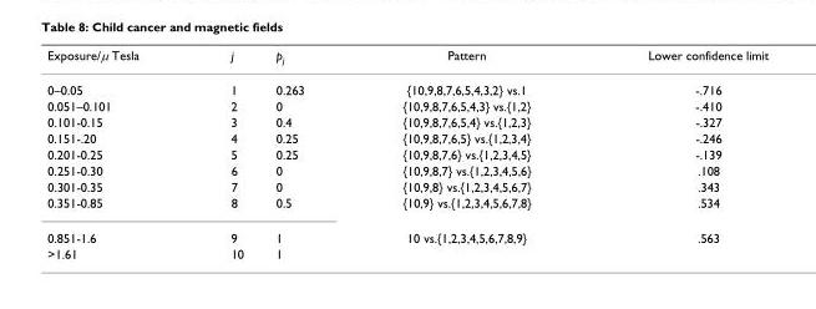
<table><thead><tr><td>Exposure/μ Tesla</td><td>j</td><td>p<sub>j</sub></td><td>Pattern</td><td>Lower confidence limit</td></tr></thead><tbody><tr><td>0–0.05</td><td>1</td><td>0.263</td><td>{10,9,8,7,6,5,4,3,2} vs.1</td><td>-.716</td></tr><tr><td>0.051–0.101</td><td>2</td><td>0</td><td>{10,9,8,7,6,5,4,3} vs.{1,2}</td><td>-.410</td></tr><tr><td>0.101-0.15</td><td>3</td><td>0.4</td><td>{10,9,8,7,6,5,4} vs.{1,2,3}</td><td>-.327</td></tr><tr><td>0.151-.20</td><td>4</td><td>0.25</td><td>{10,9,8,7,6,5} vs.{1,2,3,4}</td><td>-.246</td></tr><tr><td>0.201-0.25</td><td>5</td><td>0.25</td><td>{10,9,8,7,6} vs.{1,2,3,4,5}</td><td>-.139</td></tr><tr><td>0.251-0.30</td><td>6</td><td>0</td><td>{10,9,8,7} vs.{1,2,3,4,5,6}</td><td>.108</td></tr><tr><td>0.301-0.35</td><td>7</td><td>0</td><td>{10,9,8} vs.{1,2,3,4,5,6,7}</td><td>.343</td></tr><tr><td>0.351-0.85</td><td>8</td><td>0.5</td><td>{10,9} vs.{1,2,3,4,5,6,7,8}</td><td>.534</td></tr><tr><td>0.851-1.6</td><td>9</td><td>1</td><td>10 vs.{1,2,3,4,5,6,7,8,9}</td><td>.563</td></tr><tr><td>&gt;1.61</td><td>10</td><td>1</td><td></td><td></td></tr></tbody></table>